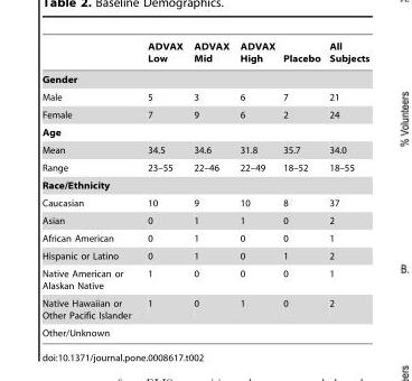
<table><thead><tr><td></td><td>ADVAX Low</td><td>ADVAX Mid</td><td>ADVAX High</td><td>Placebo</td><td>All Subjects</td></tr></thead><tbody><tr><td colspan="6">Gender</td></tr><tr><td>Male</td><td>5</td><td>3</td><td>6</td><td>7</td><td>21</td></tr><tr><td>Female</td><td>7</td><td>9</td><td>6</td><td>2</td><td>24</td></tr><tr><td colspan="6">Age</td></tr><tr><td>Mean</td><td>34.5</td><td>34.6</td><td>31.8</td><td>35.7</td><td>34.0</td></tr><tr><td>Range</td><td>23–55</td><td>22–46</td><td>22–49</td><td>18–52</td><td>18–55</td></tr><tr><td colspan="6">Race/Ethnicity</td></tr><tr><td>Caucasian</td><td>10</td><td>9</td><td>10</td><td>8</td><td>37</td></tr><tr><td>Asian</td><td>0</td><td>1</td><td>1</td><td>0</td><td>2</td></tr><tr><td>African American</td><td>0</td><td>1</td><td>0</td><td>0</td><td>1</td></tr><tr><td>Hispanic or Latino</td><td>0</td><td>1</td><td>0</td><td>1</td><td>2</td></tr><tr><td>Native American or Alaskan Native</td><td>1</td><td>0</td><td>0</td><td>0</td><td>1</td></tr><tr><td>Native Hawaiian or Other Pacific Islander</td><td>1</td><td>0</td><td>1</td><td>0</td><td>2</td></tr><tr><td>Other/Unknown</td><td></td><td></td><td></td><td></td><td></td></tr></tbody></table>